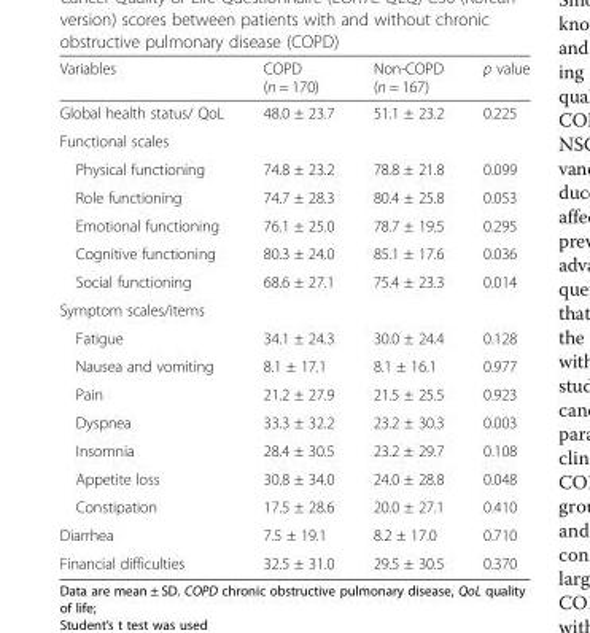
<table><thead><tr><td>Variables</td><td>COPD (n = 170)</td><td>Non-COPD (n = 167)</td><td>p value</td></tr></thead><tbody><tr><td>Global health status/ QoL</td><td>48.0 ± 23.7</td><td>51.1 ± 23.2</td><td>0.225</td></tr><tr><td colspan="4">Functional scales</td></tr><tr><td>Physical functioning</td><td>74.8 ± 23.2</td><td>78.8 ± 21.8</td><td>0.099</td></tr><tr><td>Role functioning</td><td>74.7 ± 28.3</td><td>80.4 ± 25.8</td><td>0.053</td></tr><tr><td>Emotional functioning</td><td>76.1 ± 25.0</td><td>78.7 ± 19.5</td><td>0.295</td></tr><tr><td>Cognitive functioning</td><td>80.3 ± 24.0</td><td>85.1 ± 17.6</td><td>0.036</td></tr><tr><td>Social functioning</td><td>68.6 ± 27.1</td><td>75.4 ± 23.3</td><td>0.014</td></tr><tr><td colspan="4">Symptom scales/items</td></tr><tr><td>Fatigue</td><td>34.1 ± 24.3</td><td>30.0 ± 24.4</td><td>0.128</td></tr><tr><td>Nausea and vomiting</td><td>8.1 ± 17.1</td><td>8.1 ± 16.1</td><td>0.977</td></tr><tr><td>Pain</td><td>21.2 ± 27.9</td><td>21.5 ± 25.5</td><td>0.923</td></tr><tr><td>Dyspnea</td><td>33.3 ± 32.2</td><td>23.2 ± 30.3</td><td>0.003</td></tr><tr><td>Insomnia</td><td>28.4 ± 30.5</td><td>23.2 ± 29.7</td><td>0.108</td></tr><tr><td>Appetite loss</td><td>30.8 ± 34.0</td><td>24.0 ± 28.8</td><td>0.048</td></tr><tr><td>Constipation</td><td>17.5 ± 28.6</td><td>20.0 ± 27.1</td><td>0.410</td></tr><tr><td>Diarrhea</td><td>7.5 ± 19.1</td><td>8.2 ± 17.0</td><td>0.710</td></tr><tr><td>Financial difficulties</td><td>32.5 ± 31.0</td><td>29.5 ± 30.5</td><td>0.370</td></tr></tbody></table>